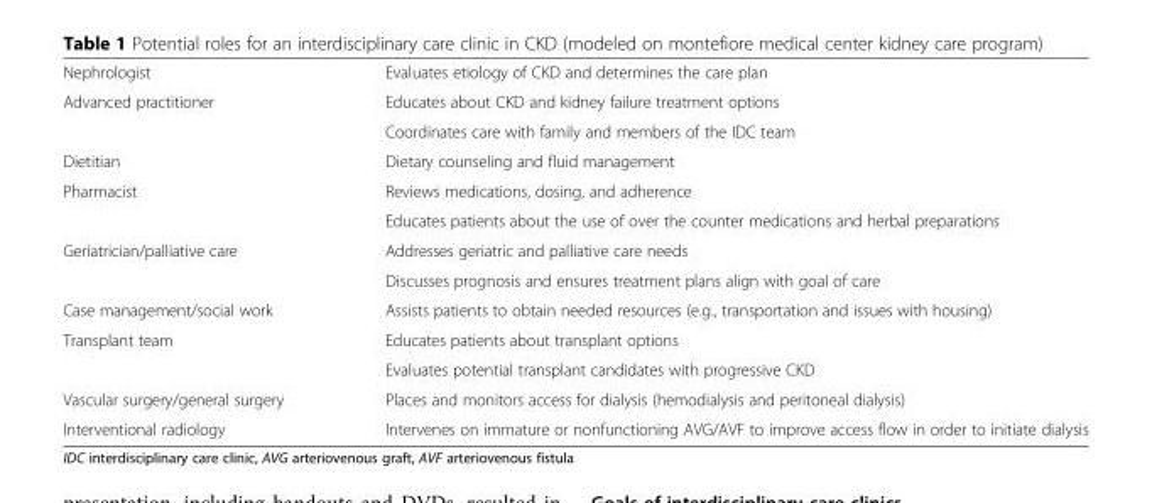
<table><tbody><tr><td>Nephrologist</td><td>Evaluates etiology of CKD and determines the care plan</td></tr><tr><td rowspan="2">Advanced practitioner</td><td>Educates about CKD and kidney failure treatment options</td></tr><tr><td>Coordinates care with family and members of the IDC team</td></tr><tr><td>Dietitian</td><td>Dietary counseling and fluid management</td></tr><tr><td rowspan="2">Pharmacist</td><td>Reviews medications, dosing, and adherence</td></tr><tr><td>Educates patients about the use of over the counter medications and herbal preparations</td></tr><tr><td rowspan="2">Geriatrician/palliative care</td><td>Addresses geriatric and palliative care needs</td></tr><tr><td>Discusses prognosis and ensures treatment plans align with goal of care</td></tr><tr><td>Case management/social work</td><td>Assists patients to obtain needed resources (e.g., transportation and issues with housing)</td></tr><tr><td rowspan="2">Transplant team</td><td>Educates patients about transplant options</td></tr><tr><td>Evaluates potential transplant candidates with progressive CKD</td></tr><tr><td>Vascular surgery/general surgery</td><td>Places and monitors access for dialysis (hemodialysis and peritoneal dialysis)</td></tr><tr><td>Interventional radiology</td><td>Intervenes on immature or nonfunctioning AVG/AVF to improve access flow in order to initiate dialysis</td></tr></tbody></table>